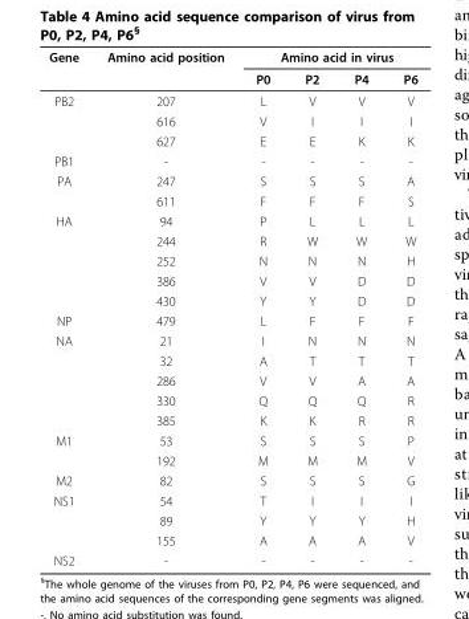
<table><thead><tr><td rowspan="2">Gene</td><td rowspan="2">Amino acid position</td><td colspan="4">Amino acid in virus</td></tr><tr><td>P0</td><td>P2</td><td>P4</td><td>P6</td></tr></thead><tbody><tr><td rowspan="3">PB2</td><td>207</td><td>L</td><td>V</td><td>V</td><td>V</td></tr><tr><td>616</td><td>V</td><td>I</td><td>I</td><td>I</td></tr><tr><td>627</td><td>E</td><td>E</td><td>K</td><td>K</td></tr><tr><td>PB1</td><td>-</td><td>-</td><td>-</td><td>-</td><td>-</td></tr><tr><td rowspan="2">PA</td><td>247</td><td>S</td><td>S</td><td>S</td><td>A</td></tr><tr><td>611</td><td>F</td><td>F</td><td>F</td><td>S</td></tr><tr><td rowspan="5">HA</td><td>94</td><td>P</td><td>L</td><td>L</td><td>L</td></tr><tr><td>244</td><td>R</td><td>W</td><td>W</td><td>W</td></tr><tr><td>252</td><td>N</td><td>N</td><td>N</td><td>H</td></tr><tr><td>386</td><td>V</td><td>V</td><td>D</td><td>D</td></tr><tr><td>430</td><td>Y</td><td>Y</td><td>D</td><td>D</td></tr><tr><td>NP</td><td>479</td><td>L</td><td>F</td><td>F</td><td>F</td></tr><tr><td rowspan="5">NA</td><td>21</td><td>I</td><td>N</td><td>N</td><td>N</td></tr><tr><td>32</td><td>A</td><td>T</td><td>T</td><td>T</td></tr><tr><td>286</td><td>V</td><td>V</td><td>A</td><td>A</td></tr><tr><td>330</td><td>Q</td><td>Q</td><td>Q</td><td>R</td></tr><tr><td>385</td><td>K</td><td>K</td><td>R</td><td>R</td></tr><tr><td rowspan="2">M1</td><td>53</td><td>S</td><td>S</td><td>S</td><td>P</td></tr><tr><td>192</td><td>M</td><td>M</td><td>M</td><td>V</td></tr><tr><td>M2</td><td>82</td><td>S</td><td>S</td><td>S</td><td>G</td></tr><tr><td rowspan="3">NS1</td><td>54</td><td>T</td><td>I</td><td>I</td><td>I</td></tr><tr><td>89</td><td>Y</td><td>Y</td><td>Y</td><td>H</td></tr><tr><td>155</td><td>A</td><td>A</td><td>A</td><td>V</td></tr><tr><td>NS2</td><td>-</td><td>-</td><td>-</td><td>-</td><td>-</td></tr></tbody></table>